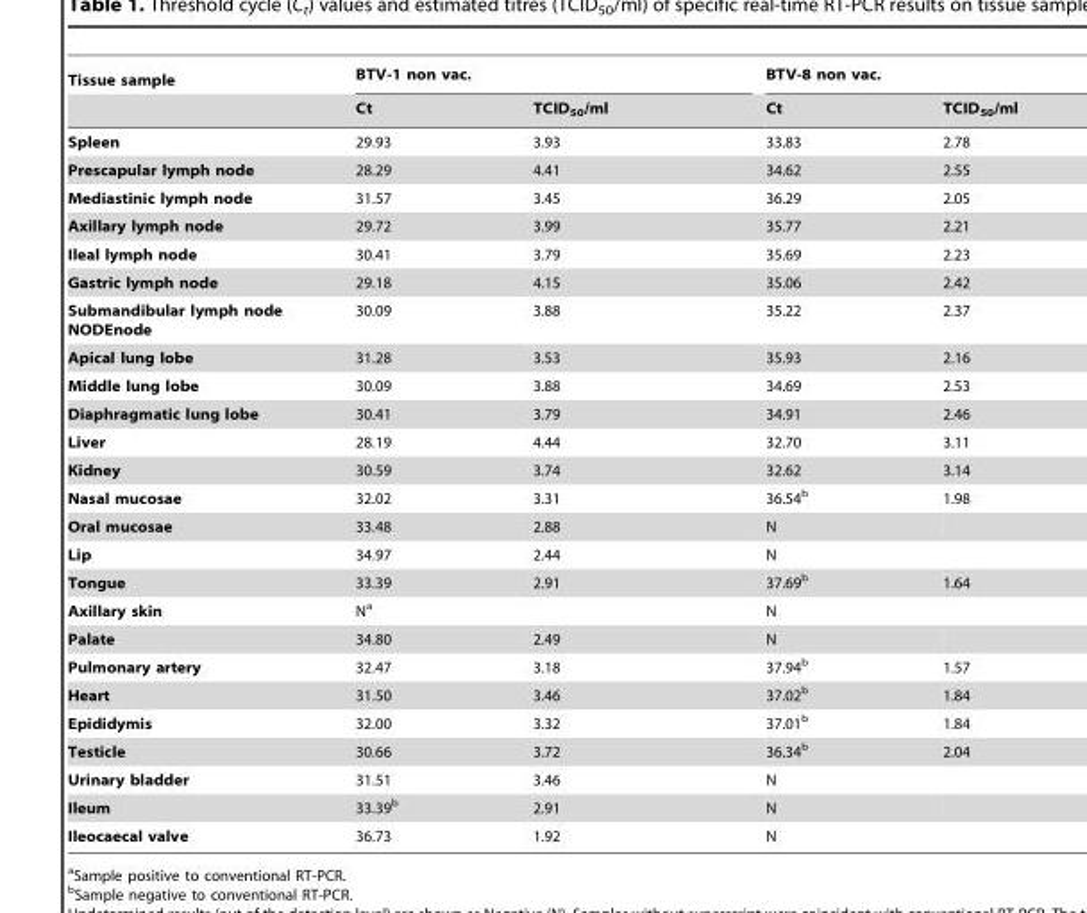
<table><thead><tr><td rowspan="2">Tissue sample</td><td colspan="2">BTV-1 non vac.</td><td colspan="2">BTV-8 non vac.</td></tr><tr><td>Ct</td><td>TCID<sub>50</sub>/ml</td><td>Ct</td><td>TCID<sub>50</sub>/ml</td></tr></thead><tbody><tr><td>Spleen</td><td>29.93</td><td>3.93</td><td>33.83</td><td>2.78</td></tr><tr><td>Prescapular lymph node</td><td>28.29</td><td>4.41</td><td>34.62</td><td>2.55</td></tr><tr><td>Mediastinic lymph node</td><td>31.57</td><td>3.45</td><td>36.29</td><td>2.05</td></tr><tr><td>Axillary lymph node</td><td>29.72</td><td>3.99</td><td>35.77</td><td>2.21</td></tr><tr><td>Ileal lymph node</td><td>30.41</td><td>3.79</td><td>35.69</td><td>2.23</td></tr><tr><td>Gastric lymph node</td><td>29.18</td><td>4.15</td><td>35.06</td><td>2.42</td></tr><tr><td>Submandibular lymph node NODEnode</td><td>30.09</td><td>3.88</td><td>35.22</td><td>2.37</td></tr><tr><td>Apical lung lobe</td><td>31.28</td><td>3.53</td><td>35.93</td><td>2.16</td></tr><tr><td>Middle lung lobe</td><td>30.09</td><td>3.88</td><td>34.69</td><td>2.53</td></tr><tr><td>Diaphragmatic lung lobe</td><td>30.41</td><td>3.79</td><td>34.91</td><td>2.46</td></tr><tr><td>Liver</td><td>28.19</td><td>4.44</td><td>32.70</td><td>3.11</td></tr><tr><td>Kidney</td><td>30.59</td><td>3.74</td><td>32.62</td><td>3.14</td></tr><tr><td>Nasal mucosae</td><td>32.02</td><td>3.31</td><td>36.54<sup>b</sup></td><td>1.98</td></tr><tr><td>Oral mucosae</td><td>33.48</td><td>2.88</td><td>N</td><td></td></tr><tr><td>Lip</td><td>34.97</td><td>2.44</td><td>N</td><td></td></tr><tr><td>Tongue</td><td>33.39</td><td>2.91</td><td>37.69<sup>b</sup></td><td>1.64</td></tr><tr><td>Axillary skin</td><td>N<sup>a</sup></td><td></td><td>N</td><td></td></tr><tr><td>Palate</td><td>34.80</td><td>2.49</td><td>N</td><td></td></tr><tr><td>Pulmonary artery</td><td>32.47</td><td>3.18</td><td>37.94<sup>b</sup></td><td>1.57</td></tr><tr><td>Heart</td><td>31.50</td><td>3.46</td><td>37.02<sup>b</sup></td><td>1.84</td></tr><tr><td>Epididymis</td><td>32.00</td><td>3.32</td><td>37.01<sup>b</sup></td><td>1.84</td></tr><tr><td>Testicle</td><td>30.66</td><td>3.72</td><td>36.34<sup>b</sup></td><td>2.04</td></tr><tr><td>Urinary bladder</td><td>31.51</td><td>3.46</td><td>N</td><td></td></tr><tr><td>Ileum</td><td>33.39<sup>b</sup></td><td>2.91</td><td>N</td><td></td></tr><tr><td>Ileocaecal valve</td><td>36.73</td><td>1.92</td><td>N</td><td></td></tr></tbody></table>